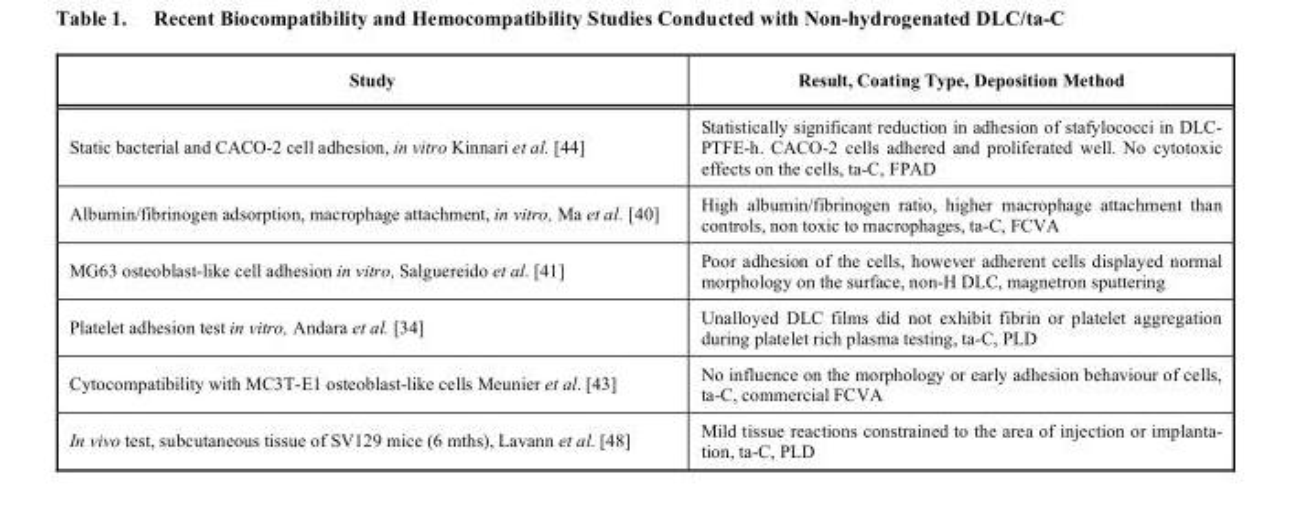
<table><thead><tr><td>Study</td><td>Result, Coating Type, Deposition Method</td></tr></thead><tbody><tr><td>Static bacterial and CACO-2 cell adhesion, in vitro Kinnari et al. [44]</td><td>Statistically significant reduction in adhesion of stafylococci in DLC- PTFE-h. CACO-2 cells adhered and proliferated well. No cytotoxic effects on the cells, ta-C, FPAD</td></tr><tr><td>Albumin/fibrinogen adsorption, macrophage attachment, in vitro, Ma et al. [40]</td><td>High albumin/fibrinogen ratio, higher macrophage attachment than controls, non toxic to macrophages, ta-C, FCVA</td></tr><tr><td>MG63 osteoblast-like cell adhesion in vitro, Salguereido et al. [41]</td><td>Poor adhesion of the cells, however adherent cells displayed normal morphology on the surface, non-H DLC, magnetron sputtering</td></tr><tr><td>Platelet adhesion test in vitro, Andara et al. [34]</td><td>Unalloyed DLC films did not exhibit fibrin or platelet aggregation during platelet rich plasma testing, ta-C, PLD</td></tr><tr><td>Cytocompatibility with MC3T-E1 osteoblast-like cells Meunier et al. [43]</td><td>No influence on the morphology or early adhesion behaviour of cells, ta-C, commercial FCVA</td></tr><tr><td>In vivo test, subcutaneous tissue of SV129 mice (6 mths), Lavann et al. [48]</td><td>Mild tissue reactions constrained to the area of injection or implanta- tion, ta-C, PLD</td></tr></tbody></table>